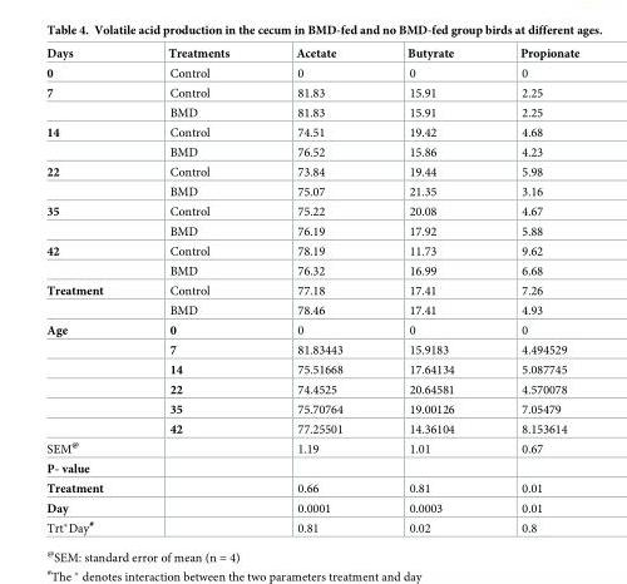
<table><thead><tr><td>Days</td><td>Treatments</td><td>Acetate</td><td>Butyrate</td><td>Propionate</td></tr></thead><tbody><tr><td>0</td><td>Control</td><td>0</td><td>0</td><td>0</td></tr><tr><td rowspan="2">7</td><td>Control</td><td>81.83</td><td>15.91</td><td>2.25</td></tr><tr><td>BMD</td><td>81.83</td><td>15.91</td><td>2.25</td></tr><tr><td rowspan="2">14</td><td>Control</td><td>74.51</td><td>19.42</td><td>4.68</td></tr><tr><td>BMD</td><td>76.52</td><td>15.86</td><td>4.23</td></tr><tr><td rowspan="2">22</td><td>Control</td><td>73.84</td><td>19.44</td><td>5.98</td></tr><tr><td>BMD</td><td>75.07</td><td>21.35</td><td>3.16</td></tr><tr><td rowspan="2">35</td><td>Control</td><td>75.22</td><td>20.08</td><td>4.67</td></tr><tr><td>BMD</td><td>76.19</td><td>17.92</td><td>5.88</td></tr><tr><td rowspan="2">42</td><td>Control</td><td>78.19</td><td>11.73</td><td>9.62</td></tr><tr><td>BMD</td><td>76.32</td><td>16.99</td><td>6.68</td></tr><tr><td rowspan="2">Treatment</td><td>Control</td><td>77.18</td><td>17.41</td><td>7.26</td></tr><tr><td>BMD</td><td>78.46</td><td>17.41</td><td>4.93</td></tr><tr><td rowspan="6">Age</td><td>0</td><td>0</td><td>0</td><td>0</td></tr><tr><td>7</td><td>81.83443</td><td>15.9183</td><td>4.494529</td></tr><tr><td>14</td><td>75.51668</td><td>17.64134</td><td>5.087745</td></tr><tr><td>22</td><td>74.4525</td><td>20.64581</td><td>4.570078</td></tr><tr><td>35</td><td>75.70764</td><td>19.00126</td><td>7.05479</td></tr><tr><td>42</td><td>77.25501</td><td>14.36104</td><td>8.153614</td></tr><tr><td>SEM<sup>@</sup></td><td></td><td>1.19</td><td>1.01</td><td>0.67</td></tr><tr><td colspan="5">P- value</td></tr><tr><td>Treatment</td><td></td><td>0.66</td><td>0.81</td><td>0.01</td></tr><tr><td>Day</td><td></td><td>0.0001</td><td>0.0003</td><td>0.01</td></tr><tr><td>Trt*Day<sup>#</sup></td><td></td><td>0.81</td><td>0.02</td><td>0.8</td></tr></tbody></table>